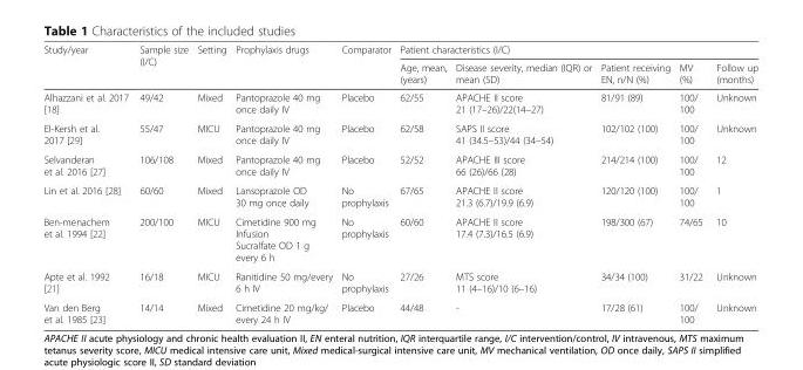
<table><thead><tr><td rowspan="2">Study/year</td><td rowspan="2">Sample size (I/C)</td><td rowspan="2">Setting</td><td rowspan="2">Prophylaxis drugs</td><td rowspan="2">Comparator</td><td colspan="5">Patient characteristics (I/C)</td></tr><tr><td>Age, mean, (years)</td><td>Disease severity, median (IQR) or mean (SD)</td><td>Patient receiving EN, n/N (%)</td><td>MV (%)</td><td>Follow up (months)</td></tr></thead><tbody><tr><td>Alhazzani et al. 2017 [18]</td><td>49/42</td><td>Mixed</td><td>Pantoprazole 40 mg once daily IV</td><td>Placebo</td><td>62/55</td><td>APACHE II score 21 (17–26)/22(14–27)</td><td>81/91 (89)</td><td>100/ 100</td><td>Unknown</td></tr><tr><td>El-Kersh et al. 2017 [29]</td><td>55/47</td><td>MICU</td><td>Pantoprazole 40 mg once daily IV</td><td>Placebo</td><td>62/58</td><td>SAPS II score 41 (34.5–53)/44 (34–54)</td><td>102/102 (100)</td><td>100/ 100</td><td>Unknown</td></tr><tr><td>Selvanderan et al. 2016 [27]</td><td>106/108</td><td>Mixed</td><td>Pantoprazole 40 mg once daily IV</td><td>Placebo</td><td>52/52</td><td>APACHE III score 66 (26)/66 (28)</td><td>214/214 (100)</td><td>100/ 100</td><td>12</td></tr><tr><td>Lin et al. 2016 [28]</td><td>60/60</td><td>Mixed</td><td>Lansoprazole OD 30 mg once daily</td><td>No prophylaxis</td><td>67/65</td><td>APACHE II score 21.3 (6.7)/19.9 (6.9)</td><td>120/120 (100)</td><td>100/ 100</td><td>1</td></tr><tr><td>Ben-menachem et al. 1994 [22]</td><td>200/100</td><td>MICU</td><td>Cimetidine 900 mg Infusion Sucralfate OD 1 g every 6 h</td><td>No prophylaxis</td><td>60/60</td><td>APACHE II score 17.4 (7.3)/16.5 (6.9)</td><td>198/300 (67)</td><td>74/65</td><td>10</td></tr><tr><td>Apte et al. 1992 [21]</td><td>16/18</td><td>MICU</td><td>Ranitidine 50 mg/every 6 h IV</td><td>No prophylaxis</td><td>27/26</td><td>MTS score 11 (4–16)/10 (6–16)</td><td>34/34 (100)</td><td>31/22</td><td>Unknown</td></tr><tr><td>Van den Berg et al. 1985 [23]</td><td>14/14</td><td>Mixed</td><td>Cimetidine 20 mg/kg/ every 24 h IV</td><td>Placebo</td><td>44/48</td><td>-</td><td>17/28 (61)</td><td>100/ 100</td><td>Unknown</td></tr></tbody></table>